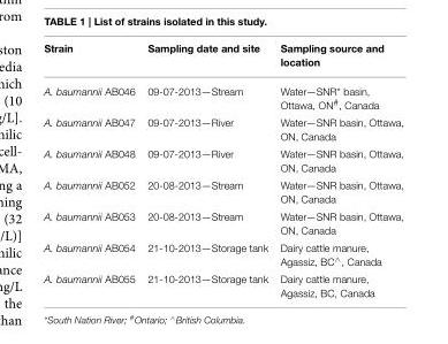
<table><thead><tr><td>Strain</td><td>Sampling date and site</td><td>Sampling source and location</td></tr></thead><tbody><tr><td>A. baumannii AB046</td><td>09-07-2013—Stream</td><td>Water—SNR* basin, Ottawa, ON<sup>#</sup>, Canada</td></tr><tr><td>A. baumannii AB047</td><td>09-07-2013—River</td><td>Water—SNR basin, Ottawa, ON, Canada</td></tr><tr><td>A. baumannii AB048</td><td>09-07-2013—River</td><td>Water—SNR basin, Ottawa, ON, Canada</td></tr><tr><td>A. baumannii AB052</td><td>20-08-2013—Stream</td><td>Water—SNR basin, Ottawa, ON, Canada</td></tr><tr><td>A. baumannii AB053</td><td>20-08-2013—Stream</td><td>Water—SNR basin, Ottawa, ON, Canada</td></tr><tr><td>A. baumannii AB054</td><td>21-10-2013—Storage tank</td><td>Dairy cattle manure, Agassiz, BC<sup>∧</sup>, Canada</td></tr><tr><td>A. baumannii AB055</td><td>21-10-2013—Storage tank</td><td>Dairy cattle manure, Agassiz, BC, Canada</td></tr></tbody></table>